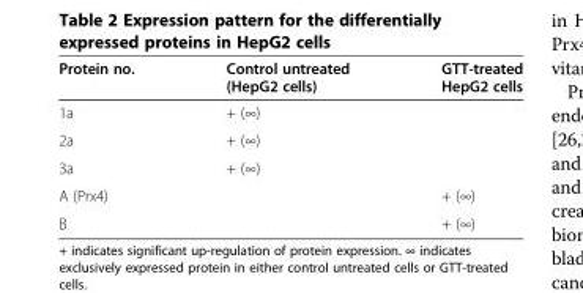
<table><thead><tr><td>Protein no.</td><td>Control untreated (HepG2 cells)</td><td>GTT-treated HepG2 cells</td></tr></thead><tbody><tr><td>1a</td><td>+ (∞)</td><td></td></tr><tr><td>2a</td><td>+ (∞)</td><td></td></tr><tr><td>3a</td><td>+ (∞)</td><td></td></tr><tr><td>A (Prx4)</td><td></td><td>+ (∞)</td></tr><tr><td>B</td><td></td><td>+ (∞)</td></tr></tbody></table>